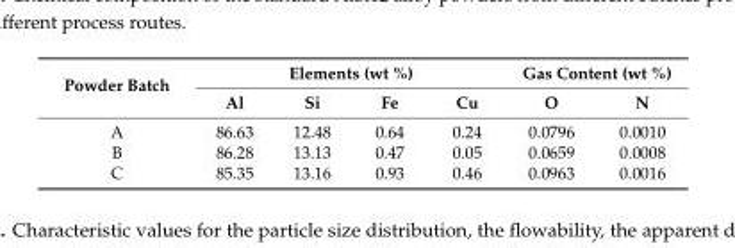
<table><thead><tr><td rowspan="2">Powder Batch</td><td colspan="4">Elements (wt %)</td><td colspan="2">Gas Content (wt %)</td></tr><tr><td>Al</td><td>Si</td><td>Fe</td><td>Cu</td><td>O</td><td>N</td></tr></thead><tbody><tr><td>A</td><td>86.63</td><td>12.48</td><td>0.64</td><td>0.24</td><td>0.0796</td><td>0.0010</td></tr><tr><td>B</td><td>86.28</td><td>13.13</td><td>0.47</td><td>0.05</td><td>0.0659</td><td>0.0008</td></tr><tr><td>C</td><td>85.35</td><td>13.16</td><td>0.93</td><td>0.46</td><td>0.0963</td><td>0.0016</td></tr></tbody></table>